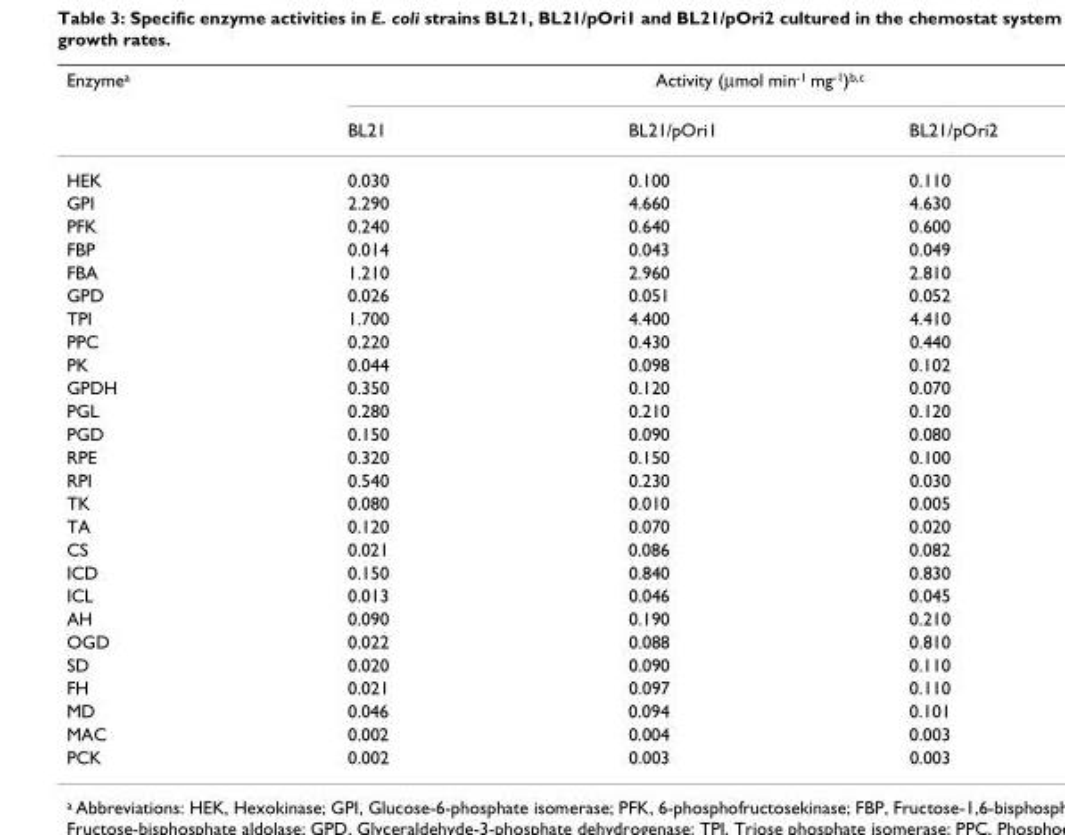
<table><thead><tr><td rowspan="2">Enzyme<sup>a</sup></td><td colspan="3">Activity (μmol min<sup>-1</sup> mg<sup>-1</sup>)<sup>b,c</sup></td></tr><tr><td>BL21</td><td>BL21/pOri1</td><td>BL21/pOri2</td></tr></thead><tbody><tr><td>HEK</td><td>0.030</td><td>0.100</td><td>0.110</td></tr><tr><td>GPI</td><td>2.290</td><td>4.660</td><td>4.630</td></tr><tr><td>PFK</td><td>0.240</td><td>0.640</td><td>0.600</td></tr><tr><td>FBP</td><td>0.014</td><td>0.043</td><td>0.049</td></tr><tr><td>FBA</td><td>1.210</td><td>2.960</td><td>2.810</td></tr><tr><td>GPD</td><td>0.026</td><td>0.051</td><td>0.052</td></tr><tr><td>TPI</td><td>1.700</td><td>4.400</td><td>4.410</td></tr><tr><td>PPC</td><td>0.220</td><td>0.430</td><td>0.440</td></tr><tr><td>PK</td><td>0.044</td><td>0.098</td><td>0.102</td></tr><tr><td>GPDH</td><td>0.350</td><td>0.120</td><td>0.070</td></tr><tr><td>PGL</td><td>0.280</td><td>0.210</td><td>0.120</td></tr><tr><td>PGD</td><td>0.150</td><td>0.090</td><td>0.080</td></tr><tr><td>RPE</td><td>0.320</td><td>0.150</td><td>0.100</td></tr><tr><td>RPI</td><td>0.540</td><td>0.230</td><td>0.030</td></tr><tr><td>TK</td><td>0.080</td><td>0.010</td><td>0.005</td></tr><tr><td>TA</td><td>0.120</td><td>0.070</td><td>0.020</td></tr><tr><td>CS</td><td>0.021</td><td>0.086</td><td>0.082</td></tr><tr><td>ICD</td><td>0.150</td><td>0.840</td><td>0.830</td></tr><tr><td>ICL</td><td>0.013</td><td>0.046</td><td>0.045</td></tr><tr><td>AH</td><td>0.090</td><td>0.190</td><td>0.210</td></tr><tr><td>OGD</td><td>0.022</td><td>0.088</td><td>0.810</td></tr><tr><td>SD</td><td>0.020</td><td>0.090</td><td>0.110</td></tr><tr><td>FH</td><td>0.021</td><td>0.097</td><td>0.110</td></tr><tr><td>MD</td><td>0.046</td><td>0.094</td><td>0.101</td></tr><tr><td>MAC</td><td>0.002</td><td>0.004</td><td>0.003</td></tr><tr><td>PCK</td><td>0.002</td><td>0.003</td><td>0.003</td></tr></tbody></table>